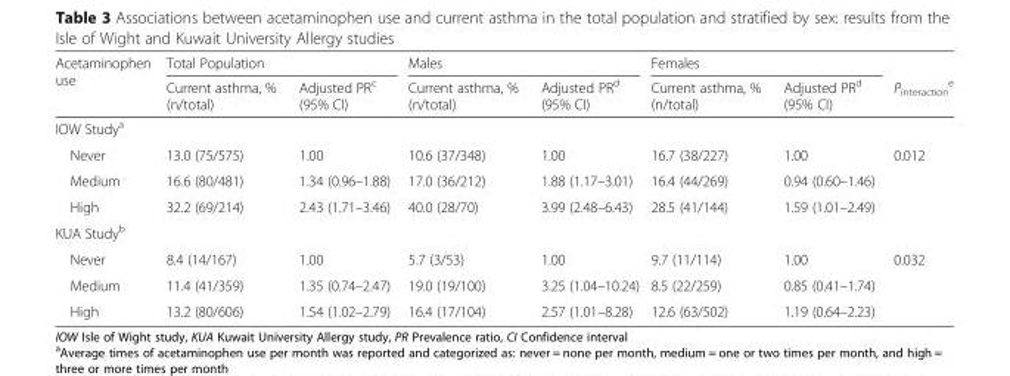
<table><thead><tr><td rowspan="2">Acetaminophen use</td><td colspan="2">Total Population</td><td colspan="2">Males</td><td colspan="2">Females</td><td rowspan="2">P<sub>interaction</sub> <sup>e</sup></td></tr><tr><td>Current asthma, % (n/total)</td><td>Adjusted PR<sup>c</sup> (95% CI)</td><td>Current asthma, % (n/total)</td><td>Adjusted PR<sup>d</sup> (95% CI)</td><td>Current asthma, % (n/total)</td><td>Adjusted PR<sup>d</sup> (95% CI)</td></tr></thead><tbody><tr><td colspan="8">IOW Study<sup>a</sup></td></tr><tr><td>Never</td><td>13.0 (75/575)</td><td>1.00</td><td>10.6 (37/348)</td><td>1.00</td><td>16.7 (38/227)</td><td>1.00</td><td>0.012</td></tr><tr><td>Medium</td><td>16.6 (80/481)</td><td>1.34 (0.96–1.88)</td><td>17.0 (36/212)</td><td>1.88 (1.17–3.01)</td><td>16.4 (44/269)</td><td>0.94 (0.60–1.46)</td><td></td></tr><tr><td>High</td><td>32.2 (69/214)</td><td>2.43 (1.71–3.46)</td><td>40.0 (28/70)</td><td>3.99 (2.48–6.43)</td><td>28.5 (41/144)</td><td>1.59 (1.01–2.49)</td><td></td></tr><tr><td colspan="8">KUA Study<sup>b</sup></td></tr><tr><td>Never</td><td>8.4 (14/167)</td><td>1.00</td><td>5.7 (3/53)</td><td>1.00</td><td>9.7 (11/114)</td><td>1.00</td><td>0.032</td></tr><tr><td>Medium</td><td>11.4 (41/359)</td><td>1.35 (0.74–2.47)</td><td>19.0 (19/100)</td><td>3.25 (1.04–10.24)</td><td>8.5 (22/259)</td><td>0.85 (0.41–1.74)</td><td></td></tr><tr><td>High</td><td>13.2 (80/606)</td><td>1.54 (1.02–2.79)</td><td>16.4 (17/104)</td><td>2.57 (1.01–8.28)</td><td>12.6 (63/502)</td><td>1.19 (0.64–2.23)</td><td></td></tr></tbody></table>